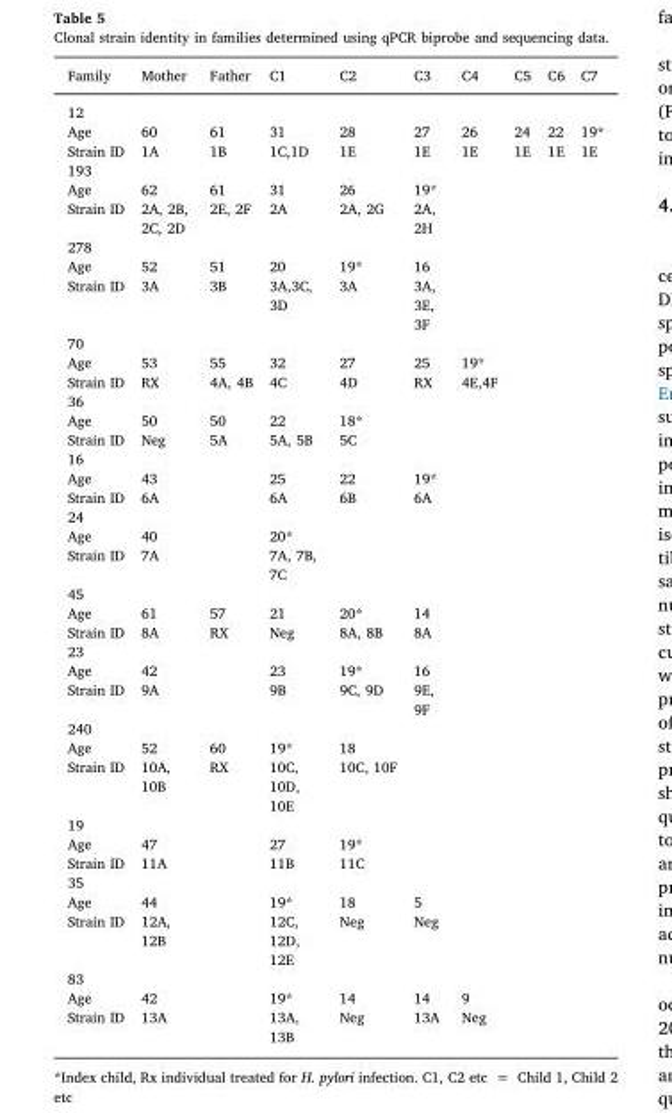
<table><thead><tr><td>Family</td><td>Mother</td><td>Father</td><td>C1</td><td>C2</td><td>C3</td><td>C4</td><td>C5</td><td>C6</td><td>C7</td></tr></thead><tbody><tr><td colspan="10">12</td></tr><tr><td>Age</td><td>60</td><td>61</td><td>31</td><td>28</td><td>27</td><td>26</td><td>24</td><td>22</td><td>19*</td></tr><tr><td>Strain ID</td><td>1A</td><td>1B</td><td>1C,1D</td><td>1E</td><td>1E</td><td>1E</td><td>1E</td><td>1E</td><td>1E</td></tr><tr><td colspan="10">193</td></tr><tr><td>Age</td><td>62</td><td>61</td><td>31</td><td>26</td><td>19*</td><td></td><td></td><td></td><td></td></tr><tr><td>Strain ID</td><td>2A, 2B, 2C, 2D</td><td>2E, 2F</td><td>2A</td><td>2A, 2G</td><td>2A, 2H</td><td></td><td></td><td></td><td></td></tr><tr><td colspan="10">278</td></tr><tr><td>Age</td><td>52</td><td>51</td><td>20</td><td>19*</td><td>16</td><td></td><td></td><td></td><td></td></tr><tr><td>Strain ID</td><td>3A</td><td>3B</td><td>3A,3C, 3D</td><td>3A</td><td>3A, 3E, 3F</td><td></td><td></td><td></td><td></td></tr><tr><td colspan="10">70</td></tr><tr><td>Age</td><td>53</td><td>55</td><td>32</td><td>27</td><td>25</td><td>19*</td><td></td><td></td><td></td></tr><tr><td>Strain ID</td><td>RX</td><td>4A, 4B</td><td>4C</td><td>4D</td><td>RX</td><td>4E,4F</td><td></td><td></td><td></td></tr><tr><td colspan="10">36</td></tr><tr><td>Age</td><td>50</td><td>50</td><td>22</td><td>18*</td><td></td><td></td><td></td><td></td><td></td></tr><tr><td>Strain ID</td><td>Neg</td><td>5A</td><td>5A, 5B</td><td>5C</td><td></td><td></td><td></td><td></td><td></td></tr><tr><td colspan="10">16</td></tr><tr><td>Age</td><td>43</td><td></td><td>25</td><td>22</td><td>19*</td><td></td><td></td><td></td><td></td></tr><tr><td>Strain ID</td><td>6A</td><td></td><td>6A</td><td>6B</td><td>6A</td><td></td><td></td><td></td><td></td></tr><tr><td colspan="10">24</td></tr><tr><td>Age</td><td>40</td><td></td><td>20*</td><td></td><td></td><td></td><td></td><td></td><td></td></tr><tr><td>Strain ID</td><td>7A</td><td></td><td>7A, 7B, 7C</td><td></td><td></td><td></td><td></td><td></td><td></td></tr><tr><td colspan="10">45</td></tr><tr><td>Age</td><td>61</td><td>57</td><td>21</td><td>20*</td><td>14</td><td></td><td></td><td></td><td></td></tr><tr><td>Strain ID</td><td>8A</td><td>RX</td><td>Neg</td><td>8A, 8B</td><td>8A</td><td></td><td></td><td></td><td></td></tr><tr><td colspan="10">23</td></tr><tr><td>Age</td><td>42</td><td></td><td>23</td><td>19*</td><td>16</td><td></td><td></td><td></td><td></td></tr><tr><td>Strain ID</td><td>9A</td><td></td><td>9B</td><td>9C, 9D</td><td>9E, 9F</td><td></td><td></td><td></td><td></td></tr><tr><td colspan="10">240</td></tr><tr><td>Age</td><td>52</td><td>60</td><td>19*</td><td>18</td><td></td><td></td><td></td><td></td><td></td></tr><tr><td>Strain ID</td><td>10A, 10B</td><td>RX</td><td>10C, 10D, 10E</td><td>10C, 10F</td><td></td><td></td><td></td><td></td><td></td></tr><tr><td colspan="10">19</td></tr><tr><td>Age</td><td>47</td><td></td><td>27</td><td>19*</td><td></td><td></td><td></td><td></td><td></td></tr><tr><td>Strain ID</td><td>11A</td><td></td><td>11B</td><td>11C</td><td></td><td></td><td></td><td></td><td></td></tr><tr><td colspan="10">35</td></tr><tr><td>Age</td><td>44</td><td></td><td>19*</td><td>18</td><td>5</td><td></td><td></td><td></td><td></td></tr><tr><td>Strain ID</td><td>12A, 12B</td><td></td><td>12C, 12D, 12E</td><td>Neg</td><td>Neg</td><td></td><td></td><td></td><td></td></tr><tr><td colspan="10">83</td></tr><tr><td>Age</td><td>42</td><td></td><td>19*</td><td>14</td><td>14</td><td>9</td><td></td><td></td><td></td></tr><tr><td>Strain ID</td><td>13A</td><td></td><td>13A, 13B</td><td>Neg</td><td>13A</td><td>Neg</td><td></td><td></td><td></td></tr></tbody></table>